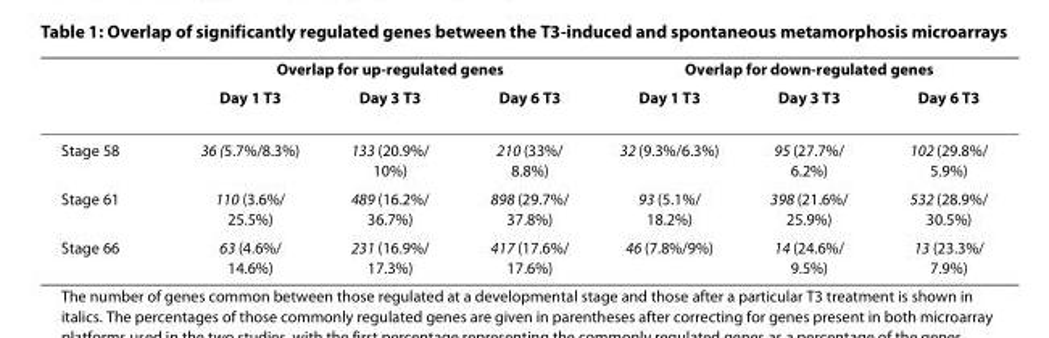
<table><thead><tr><td rowspan="2"></td><td colspan="3">Overlap for up-regulated genes</td><td colspan="3">Overlap for down-regulated genes</td></tr><tr><td>Day 1 T3</td><td>Day 3 T3</td><td>Day 6 T3</td><td>Day 1 T3</td><td>Day 3 T3</td><td>Day 6 T3</td></tr></thead><tbody><tr><td>Stage 58</td><td>36 (5.7%/8.3%)</td><td>133 (20.9%/ 10%)</td><td>210 (33%/ 8.8%)</td><td>32 (9.3%/6.3%)</td><td>95 (27.7%/ 6.2%)</td><td>102 (29.8%/ 5.9%)</td></tr><tr><td>Stage 61</td><td>110 (3.6%/ 25.5%)</td><td>489 (16.2%/ 36.7%)</td><td>898 (29.7%/ 37.8%)</td><td>93 (5.1%/ 18.2%)</td><td>398 (21.6%/ 25.9%)</td><td>532 (28.9%/ 30.5%)</td></tr><tr><td>Stage 66</td><td>63 (4.6%/ 14.6%)</td><td>231 (16.9%/ 17.3%)</td><td>417 (17.6%/ 17.6%)</td><td>46 (7.8%/9%)</td><td>14 (24.6%/ 9.5%)</td><td>13 (23.3%/ 7.9%)</td></tr></tbody></table>